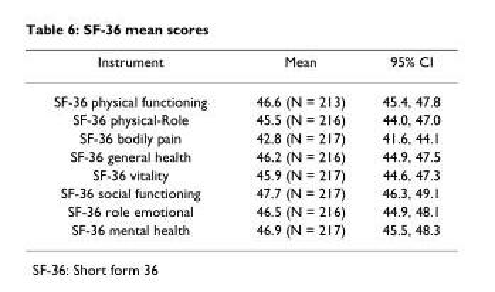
<table><thead><tr><td>Instrument</td><td>Mean</td><td>95% CI</td></tr></thead><tbody><tr><td>SF-36 physical functioning</td><td>46.6 (N = 213)</td><td>45.4, 47.8</td></tr><tr><td>SF-36 physical-Role</td><td>45.5 (N = 216)</td><td>44.0, 47.0</td></tr><tr><td>SF-36 bodily pain</td><td>42.8 (N = 217)</td><td>41.6, 44.1</td></tr><tr><td>SF-36 general health</td><td>46.2 (N = 216)</td><td>44.9, 47.5</td></tr><tr><td>SF-36 vitality</td><td>45.9 (N = 217)</td><td>44.6, 47.3</td></tr><tr><td>SF-36 social functioning</td><td>47.7 (N = 217)</td><td>46.3, 49.1</td></tr><tr><td>SF-36 role emotional</td><td>46.5 (N = 216)</td><td>44.9, 48.1</td></tr><tr><td>SF-36 mental health</td><td>46.9 (N = 217)</td><td>45.5, 48.3</td></tr></tbody></table>